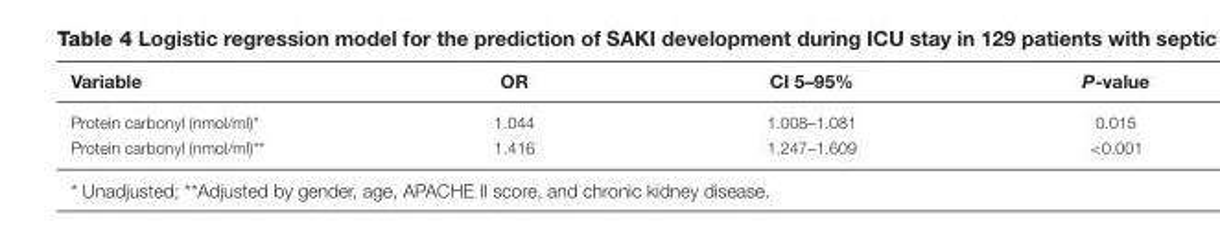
<table><thead><tr><td>Variable</td><td>OR</td><td>CI 5–95%</td><td>P-value</td></tr></thead><tbody><tr><td>Protein carbonyl (nmol/ml)*</td><td>1.044</td><td>1.008–1.081</td><td>0.015</td></tr><tr><td>Protein carbonyl (nmol/ml)**</td><td>1.416</td><td>1.247–1.609</td><td>&lt;0.001</td></tr></tbody></table>